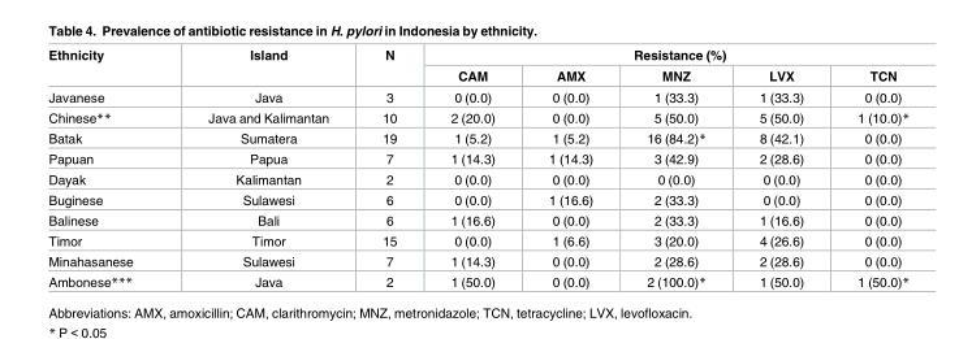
<table><thead><tr><td rowspan="2">Ethnicity</td><td rowspan="2">Island</td><td rowspan="2">N</td><td colspan="5">Resistance (%)</td></tr><tr><td>CAM</td><td>AMX</td><td>MNZ</td><td>LVX</td><td>TCN</td></tr></thead><tbody><tr><td>Javanese</td><td>Java</td><td>3</td><td>0 (0.0)</td><td>0 (0.0)</td><td>1 (33.3)</td><td>1 (33.3)</td><td>0 (0.0)</td></tr><tr><td>Chinese**</td><td>Java and Kalimantan</td><td>10</td><td>2 (20.0)</td><td>0 (0.0)</td><td>5 (50.0)</td><td>5 (50.0)</td><td>1 (10.0)*</td></tr><tr><td>Batak</td><td>Sumatera</td><td>19</td><td>1 (5.2)</td><td>1 (5.2)</td><td>16 (84.2)*</td><td>8 (42.1)</td><td>0 (0.0)</td></tr><tr><td>Papuan</td><td>Papua</td><td>7</td><td>1 (14.3)</td><td>1 (14.3)</td><td>3 (42.9)</td><td>2 (28.6)</td><td>0 (0.0)</td></tr><tr><td>Dayak</td><td>Kalimantan</td><td>2</td><td>0 (0.0)</td><td>0 (0.0)</td><td>0 (0.0)</td><td>0 (0.0)</td><td>0 (0.0)</td></tr><tr><td>Buginese</td><td>Sulawesi</td><td>6</td><td>0 (0.0)</td><td>1 (16.6)</td><td>2 (33.3)</td><td>0 (0.0)</td><td>0 (0.0)</td></tr><tr><td>Balinese</td><td>Bali</td><td>6</td><td>1 (16.6)</td><td>0 (0.0)</td><td>2 (33.3)</td><td>1 (16.6)</td><td>0 (0.0)</td></tr><tr><td>Timor</td><td>Timor</td><td>15</td><td>0 (0.0)</td><td>1 (6.6)</td><td>3 (20.0)</td><td>4 (26.6)</td><td>0 (0.0)</td></tr><tr><td>Minahasanese</td><td>Sulawesi</td><td>7</td><td>1 (14.3)</td><td>0 (0.0)</td><td>2 (28.6)</td><td>2 (28.6)</td><td>0 (0.0)</td></tr><tr><td>Ambonese***</td><td>Java</td><td>2</td><td>1 (50.0)</td><td>0 (0.0)</td><td>2 (100.0)*</td><td>1 (50.0)</td><td>1 (50.0)*</td></tr></tbody></table>